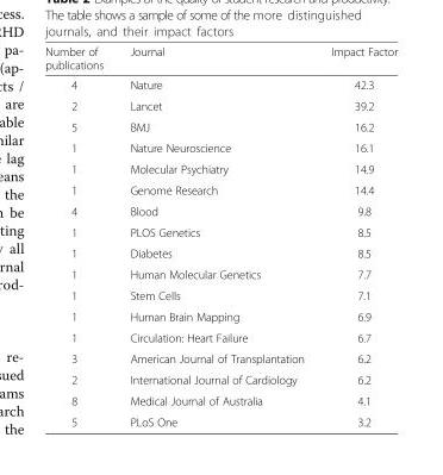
<table><thead><tr><td>Number of publications</td><td>Journal</td><td>Impact Factor</td></tr></thead><tbody><tr><td>4</td><td>Nature</td><td>42.3</td></tr><tr><td>2</td><td>Lancet</td><td>39.2</td></tr><tr><td>5</td><td>BMJ</td><td>16.2</td></tr><tr><td>1</td><td>Nature Neuroscience</td><td>16.1</td></tr><tr><td>1</td><td>Molecular Psychiatry</td><td>14.9</td></tr><tr><td>1</td><td>Genome Research</td><td>14.4</td></tr><tr><td>4</td><td>Blood</td><td>9.8</td></tr><tr><td>1</td><td>PLOS Genetics</td><td>8.5</td></tr><tr><td>1</td><td>Diabetes</td><td>8.5</td></tr><tr><td>1</td><td>Human Molecular Genetics</td><td>7.7</td></tr><tr><td>1</td><td>Stem Cells</td><td>7.1</td></tr><tr><td>1</td><td>Human Brain Mapping</td><td>6.9</td></tr><tr><td>1</td><td>Circulation: Heart Failure</td><td>6.7</td></tr><tr><td>3</td><td>American Journal of Transplantation</td><td>6.2</td></tr><tr><td>2</td><td>International Journal of Cardiology</td><td>6.2</td></tr><tr><td>8</td><td>Medical Journal of Australia</td><td>4.1</td></tr><tr><td>5</td><td>PLoS One</td><td>3.2</td></tr></tbody></table>